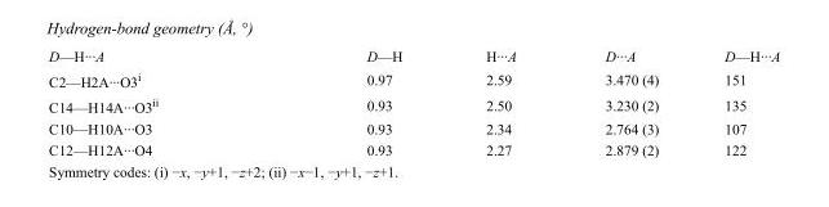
<table><tbody><tr><td>D—H···A</td><td>D—H</td><td>H···A</td><td>D···A</td><td>D—H···A</td></tr><tr><td>C2—H2A···O3<sup>i</sup></td><td>0.97</td><td>2.59</td><td>3.470 (4)</td><td>151</td></tr><tr><td>C14—H14A···O3<sup>ii</sup></td><td>0.93</td><td>2.50</td><td>3.230 (2)</td><td>135</td></tr><tr><td>C10—H10A···O3</td><td>0.93</td><td>2.34</td><td>2.764 (3)</td><td>107</td></tr><tr><td>C12—H12A···O4</td><td>0.93</td><td>2.27</td><td>2.879 (2)</td><td>122</td></tr></tbody></table>